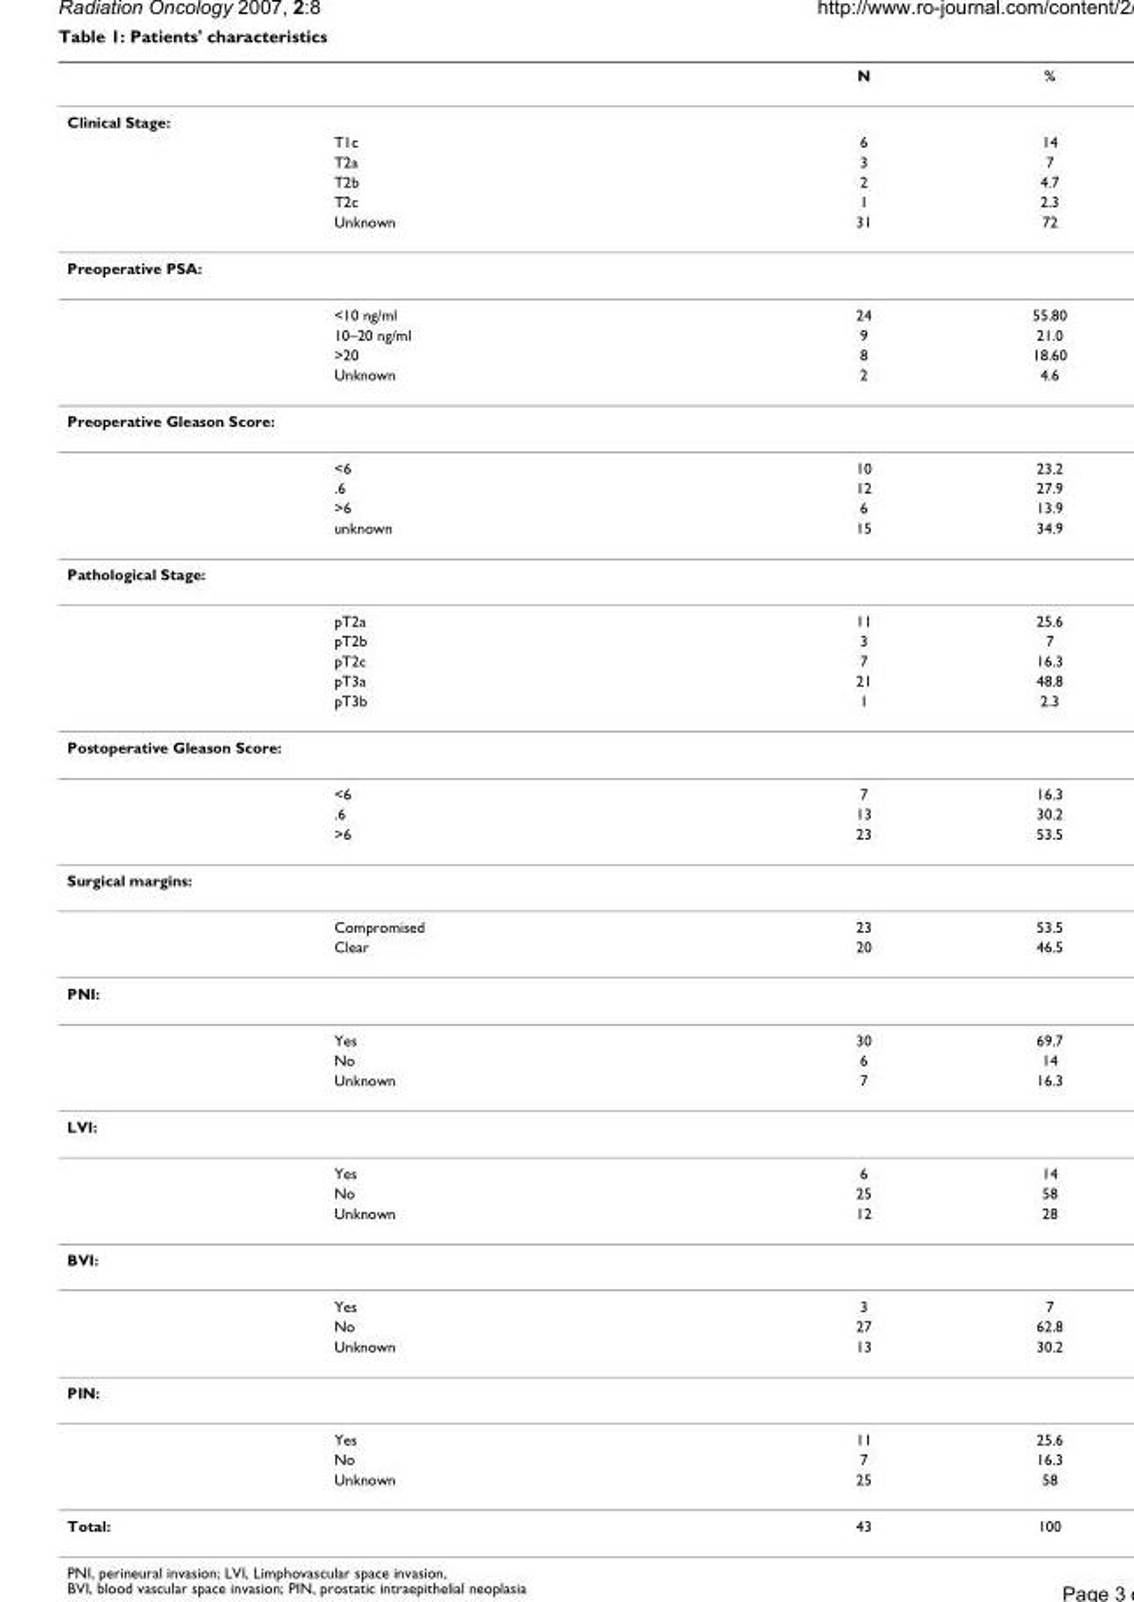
<table><thead><tr><td></td><td></td><td>N</td><td>%</td></tr></thead><tbody><tr><td colspan="4">Clinical Stage:</td></tr><tr><td></td><td>T1c</td><td>6</td><td>14</td></tr><tr><td></td><td>T2a</td><td>3</td><td>7</td></tr><tr><td></td><td>T2b</td><td>2</td><td>4.7</td></tr><tr><td></td><td>T2c</td><td>1</td><td>2.3</td></tr><tr><td></td><td>Unknown</td><td>31</td><td>72</td></tr><tr><td colspan="4">Preoperative PSA:</td></tr><tr><td></td><td>&lt;10 ng/ml</td><td>24</td><td>55.80</td></tr><tr><td></td><td>10–20 ng/ml</td><td>9</td><td>21.0</td></tr><tr><td></td><td>&gt;20</td><td>8</td><td>18.60</td></tr><tr><td></td><td>Unknown</td><td>2</td><td>4.6</td></tr><tr><td colspan="4">Preoperative Gleason Score:</td></tr><tr><td></td><td>&lt;6</td><td>10</td><td>23.2</td></tr><tr><td></td><td>.6</td><td>12</td><td>27.9</td></tr><tr><td></td><td>&gt;6</td><td>6</td><td>13.9</td></tr><tr><td></td><td>unknown</td><td>15</td><td>34.9</td></tr><tr><td colspan="4">Pathological Stage:</td></tr><tr><td></td><td>pT2a</td><td>11</td><td>25.6</td></tr><tr><td></td><td>pT2b</td><td>3</td><td>7</td></tr><tr><td></td><td>pT2c</td><td>7</td><td>16.3</td></tr><tr><td></td><td>pT3a</td><td>21</td><td>48.8</td></tr><tr><td></td><td>pT3b</td><td>1</td><td>2.3</td></tr><tr><td colspan="4">Postoperative Gleason Score:</td></tr><tr><td></td><td>&lt;6</td><td>7</td><td>16.3</td></tr><tr><td></td><td>.6</td><td>13</td><td>30.2</td></tr><tr><td></td><td>&gt;6</td><td>23</td><td>53.5</td></tr><tr><td colspan="4">Surgical margins:</td></tr><tr><td></td><td>Compromised</td><td>23</td><td>53.5</td></tr><tr><td></td><td>Clear</td><td>20</td><td>46.5</td></tr><tr><td colspan="4">PNI:</td></tr><tr><td></td><td>Yes</td><td>30</td><td>69.7</td></tr><tr><td></td><td>No</td><td>6</td><td>14</td></tr><tr><td></td><td>Unknown</td><td>7</td><td>16.3</td></tr><tr><td colspan="4">LVI:</td></tr><tr><td></td><td>Yes</td><td>6</td><td>14</td></tr><tr><td></td><td>No</td><td>25</td><td>58</td></tr><tr><td></td><td>Unknown</td><td>12</td><td>28</td></tr><tr><td colspan="4">BVI:</td></tr><tr><td></td><td>Yes</td><td>3</td><td>7</td></tr><tr><td></td><td>No</td><td>27</td><td>62.8</td></tr><tr><td></td><td>Unknown</td><td>13</td><td>30.2</td></tr><tr><td colspan="4">PIN:</td></tr><tr><td></td><td>Yes</td><td>11</td><td>25.6</td></tr><tr><td></td><td>No</td><td>7</td><td>16.3</td></tr><tr><td></td><td>Unknown</td><td>25</td><td>58</td></tr><tr><td>Total:</td><td></td><td>43</td><td>100</td></tr></tbody></table>